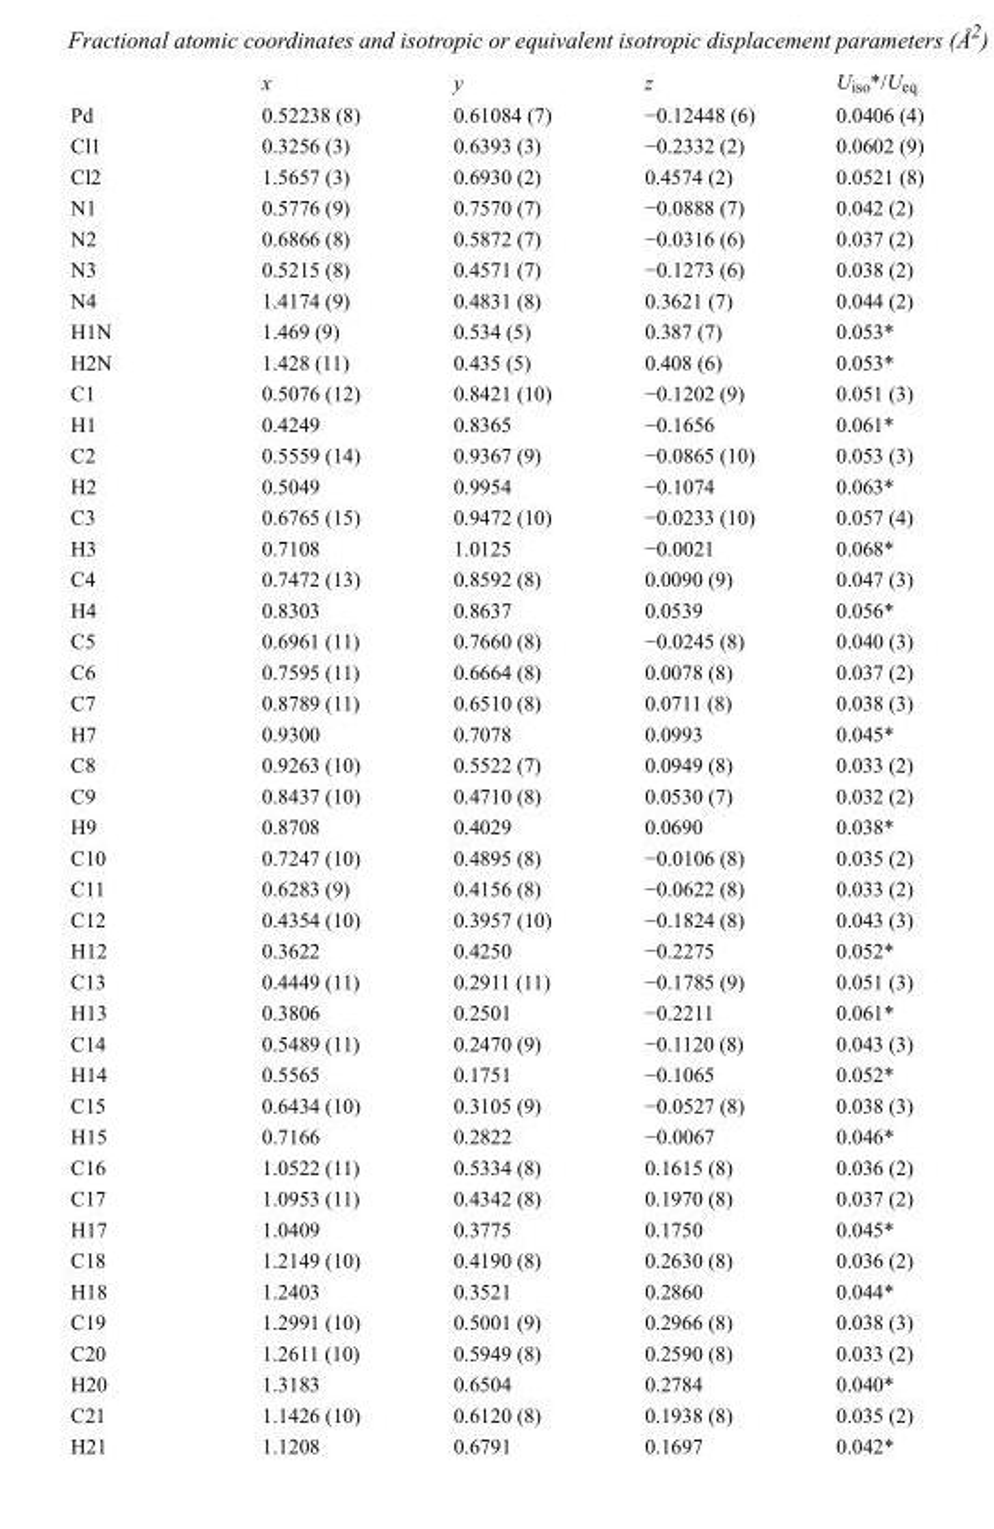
<table><thead><tr><td></td><td>x</td><td>y</td><td>z</td><td>U<sub>iso</sub>*/U<sub>eq</sub></td></tr></thead><tbody><tr><td>Pd</td><td>0.52238 (8)</td><td>0.61084 (7)</td><td>−0.12448 (6)</td><td>0.0406 (4)</td></tr><tr><td>Cl1</td><td>0.3256 (3)</td><td>0.6393 (3)</td><td>−0.2332 (2)</td><td>0.0602 (9)</td></tr><tr><td>Cl2</td><td>1.5657 (3)</td><td>0.6930 (2)</td><td>0.4574 (2)</td><td>0.0521 (8)</td></tr><tr><td>N1</td><td>0.5776 (9)</td><td>0.7570 (7)</td><td>−0.0888 (7)</td><td>0.042 (2)</td></tr><tr><td>N2</td><td>0.6866 (8)</td><td>0.5872 (7)</td><td>−0.0316 (6)</td><td>0.037 (2)</td></tr><tr><td>N3</td><td>0.5215 (8)</td><td>0.4571 (7)</td><td>−0.1273 (6)</td><td>0.038 (2)</td></tr><tr><td>N4</td><td>1.4174 (9)</td><td>0.4831 (8)</td><td>0.3621 (7)</td><td>0.044 (2)</td></tr><tr><td>H1N</td><td>1.469 (9)</td><td>0.534 (5)</td><td>0.387 (7)</td><td>0.053*</td></tr><tr><td>H2N</td><td>1.428 (11)</td><td>0.435 (5)</td><td>0.408 (6)</td><td>0.053*</td></tr><tr><td>C1</td><td>0.5076 (12)</td><td>0.8421 (10)</td><td>−0.1202 (9)</td><td>0.051 (3)</td></tr><tr><td>H1</td><td>0.4249</td><td>0.8365</td><td>−0.1656</td><td>0.061*</td></tr><tr><td>C2</td><td>0.5559 (14)</td><td>0.9367 (9)</td><td>−0.0865 (10)</td><td>0.053 (3)</td></tr><tr><td>H2</td><td>0.5049</td><td>0.9954</td><td>−0.1074</td><td>0.063*</td></tr><tr><td>C3</td><td>0.6765 (15)</td><td>0.9472 (10)</td><td>−0.0233 (10)</td><td>0.057 (4)</td></tr><tr><td>H3</td><td>0.7108</td><td>1.0125</td><td>−0.0021</td><td>0.068*</td></tr><tr><td>C4</td><td>0.7472 (13)</td><td>0.8592 (8)</td><td>0.0090 (9)</td><td>0.047 (3)</td></tr><tr><td>H4</td><td>0.8303</td><td>0.8637</td><td>0.0539</td><td>0.056*</td></tr><tr><td>C5</td><td>0.6961 (11)</td><td>0.7660 (8)</td><td>−0.0245 (8)</td><td>0.040 (3)</td></tr><tr><td>C6</td><td>0.7595 (11)</td><td>0.6664 (8)</td><td>0.0078 (8)</td><td>0.037 (2)</td></tr><tr><td>C7</td><td>0.8789 (11)</td><td>0.6510 (8)</td><td>0.0711 (8)</td><td>0.038 (3)</td></tr><tr><td>H7</td><td>0.9300</td><td>0.7078</td><td>0.0993</td><td>0.045*</td></tr><tr><td>C8</td><td>0.9263 (10)</td><td>0.5522 (7)</td><td>0.0949 (8)</td><td>0.033 (2)</td></tr><tr><td>C9</td><td>0.8437 (10)</td><td>0.4710 (8)</td><td>0.0530 (7)</td><td>0.032 (2)</td></tr><tr><td>H9</td><td>0.8708</td><td>0.4029</td><td>0.0690</td><td>0.038*</td></tr><tr><td>C10</td><td>0.7247 (10)</td><td>0.4895 (8)</td><td>−0.0106 (8)</td><td>0.035 (2)</td></tr><tr><td>C11</td><td>0.6283 (9)</td><td>0.4156 (8)</td><td>−0.0622 (8)</td><td>0.033 (2)</td></tr><tr><td>C12</td><td>0.4354 (10)</td><td>0.3957 (10)</td><td>−0.1824 (8)</td><td>0.043 (3)</td></tr><tr><td>H12</td><td>0.3622</td><td>0.4250</td><td>−0.2275</td><td>0.052*</td></tr><tr><td>C13</td><td>0.4449 (11)</td><td>0.2911 (11)</td><td>−0.1785 (9)</td><td>0.051 (3)</td></tr><tr><td>H13</td><td>0.3806</td><td>0.2501</td><td>−0.2211</td><td>0.061*</td></tr><tr><td>C14</td><td>0.5489 (11)</td><td>0.2470 (9)</td><td>−0.1120 (8)</td><td>0.043 (3)</td></tr><tr><td>H14</td><td>0.5565</td><td>0.1751</td><td>−0.1065</td><td>0.052*</td></tr><tr><td>C15</td><td>0.6434 (10)</td><td>0.3105 (9)</td><td>−0.0527 (8)</td><td>0.038 (3)</td></tr><tr><td>H15</td><td>0.7166</td><td>0.2822</td><td>−0.0067</td><td>0.046*</td></tr><tr><td>C16</td><td>1.0522 (11)</td><td>0.5334 (8)</td><td>0.1615 (8)</td><td>0.036 (2)</td></tr><tr><td>C17</td><td>1.0953 (11)</td><td>0.4342 (8)</td><td>0.1970 (8)</td><td>0.037 (2)</td></tr><tr><td>H17</td><td>1.0409</td><td>0.3775</td><td>0.1750</td><td>0.045*</td></tr><tr><td>C18</td><td>1.2149 (10)</td><td>0.4190 (8)</td><td>0.2630 (8)</td><td>0.036 (2)</td></tr><tr><td>H18</td><td>1.2403</td><td>0.3521</td><td>0.2860</td><td>0.044*</td></tr><tr><td>C19</td><td>1.2991 (10)</td><td>0.5001 (9)</td><td>0.2966 (8)</td><td>0.038 (3)</td></tr><tr><td>C20</td><td>1.2611 (10)</td><td>0.5949 (8)</td><td>0.2590 (8)</td><td>0.033 (2)</td></tr><tr><td>H20</td><td>1.3183</td><td>0.6504</td><td>0.2784</td><td>0.040*</td></tr><tr><td>C21</td><td>1.1426 (10)</td><td>0.6120 (8)</td><td>0.1938 (8)</td><td>0.035 (2)</td></tr><tr><td>H21</td><td>1.1208</td><td>0.6791</td><td>0.1697</td><td>0.042*</td></tr></tbody></table>